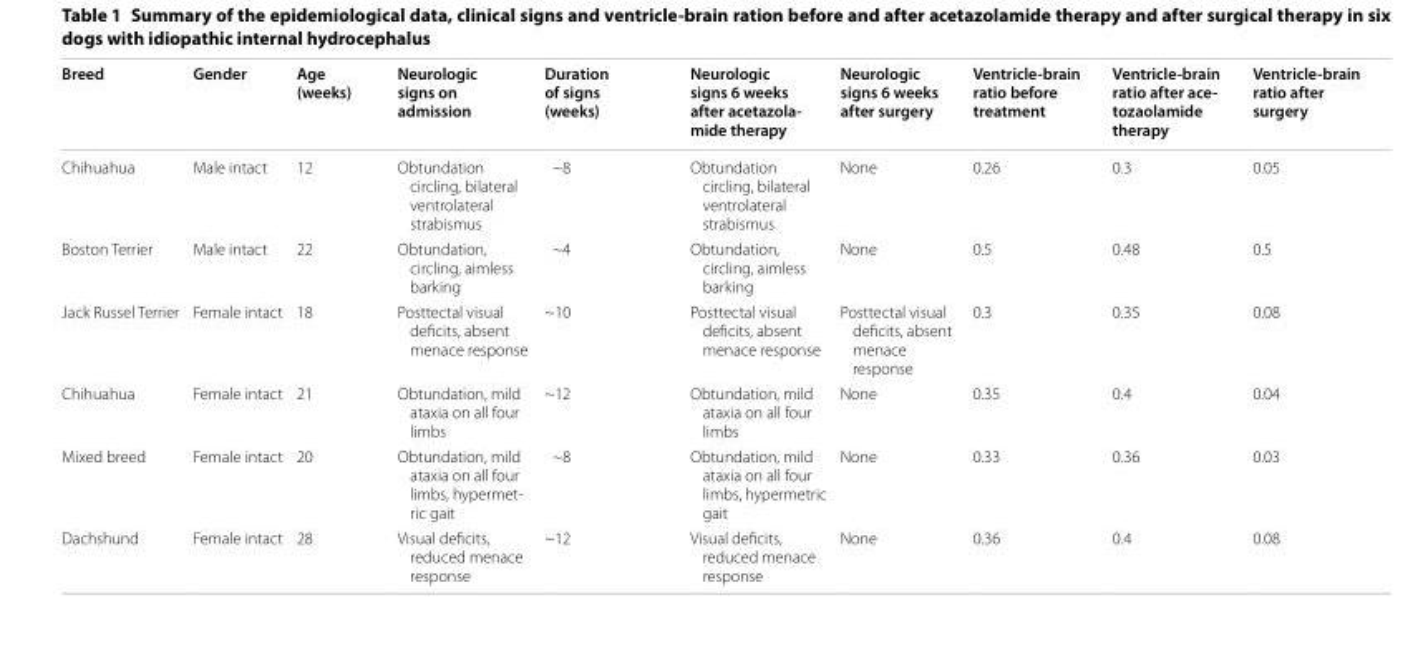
<table><thead><tr><td>Breed</td><td>Gender</td><td>Age (weeks)</td><td>Neurologic signs on admission</td><td>Duration of signs (weeks)</td><td>Neurologic signs 6 weeks after acetazola- mide therapy</td><td>Neurologic signs 6 weeks after surgery</td><td>Ventricle-brain ratio before treatment</td><td>Ventricle-brain ratio after ace- tozaolamide therapy</td><td>Ventricle-brain ratio after surgery</td></tr></thead><tbody><tr><td>Chihuahua</td><td>Male intact</td><td>12</td><td>Obtundation circling, bilateral ventrolateral strabismus</td><td>~8</td><td>Obtundation circling, bilateral ventrolateral strabismus</td><td>None</td><td>0.26</td><td>0.3</td><td>0.05</td></tr><tr><td>Boston Terrier</td><td>Male intact</td><td>22</td><td>Obtundation, circling, aimless barking</td><td>~4</td><td>Obtundation, circling, aimless barking</td><td>None</td><td>0.5</td><td>0.48</td><td>0.5</td></tr><tr><td>Jack Russel Terrier</td><td>Female intact</td><td>18</td><td>Posttectal visual deficits, absent menace response</td><td>~10</td><td>Posttectal visual deficits, absent menace response</td><td>Posttectal visual deficits, absent menace response</td><td>0.3</td><td>0.35</td><td>0.08</td></tr><tr><td>Chihuahua</td><td>Female intact</td><td>21</td><td>Obtundation, mild ataxia on all four limbs</td><td>~12</td><td>Obtundation, mild ataxia on all four limbs</td><td>None</td><td>0.35</td><td>0.4</td><td>0.04</td></tr><tr><td>Mixed breed</td><td>Female intact</td><td>20</td><td>Obtundation, mild ataxia on all four limbs, hypermet- ric gait</td><td>~8</td><td>Obtundation, mild ataxia on all four limbs, hypermetric gait</td><td>None</td><td>0.33</td><td>0.36</td><td>0.03</td></tr><tr><td>Dachshund</td><td>Female intact</td><td>28</td><td>Visual deficits, reduced menace response</td><td>~12</td><td>Visual deficits, reduced menace response</td><td>None</td><td>0.36</td><td>0.4</td><td>0.08</td></tr></tbody></table>